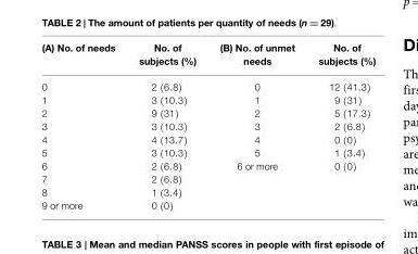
<table><thead><tr><td>(A) No. of needs</td><td>No. of subjects (%)</td><td>(B) No. of unmet needs</td><td>No. of subjects (%)</td></tr></thead><tbody><tr><td>0</td><td>2 (6.8)</td><td>0</td><td>12 (41.3)</td></tr><tr><td>1</td><td>3 (10.3)</td><td>1</td><td>9 (31)</td></tr><tr><td>2</td><td>9 (31)</td><td>2</td><td>5 (17.3)</td></tr><tr><td>3</td><td>3 (10.3)</td><td>3</td><td>2 (6.8)</td></tr><tr><td>4</td><td>4 (13.7)</td><td>4</td><td>0 (0)</td></tr><tr><td>5</td><td>3 (10.3)</td><td>5</td><td>1 (3.4)</td></tr><tr><td>6</td><td>2 (6.8)</td><td>6 or more</td><td>0 (0)</td></tr><tr><td>7</td><td>2 (6.8)</td><td></td><td></td></tr><tr><td>8</td><td>1 (3.4)</td><td></td><td></td></tr><tr><td>9 or more</td><td>0 (0)</td><td></td><td></td></tr></tbody></table>